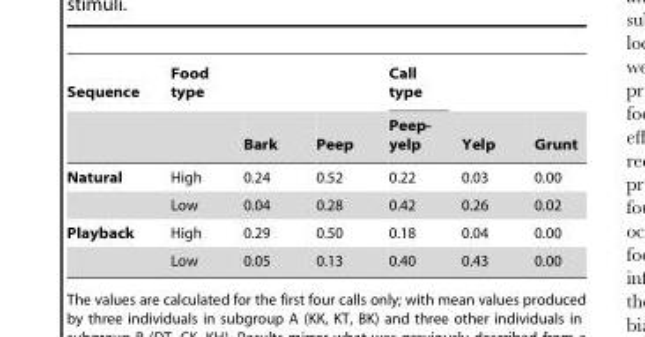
<table><thead><tr><td rowspan="2">Sequence</td><td rowspan="2">Food type</td><td rowspan="2">Bark</td><td rowspan="2">Peep</td><td rowspan="2">Call type Peep- yelp</td><td rowspan="2">Yelp</td><td rowspan="2">Grunt</td></tr><tr></tr></thead><tbody><tr><td rowspan="2">Natural</td><td>High</td><td>0.24</td><td>0.52</td><td>0.22</td><td>0.03</td><td>0.00</td></tr><tr><td>Low</td><td>0.04</td><td>0.28</td><td>0.42</td><td>0.26</td><td>0.02</td></tr><tr><td rowspan="2">Playback</td><td>High</td><td>0.29</td><td>0.50</td><td>0.18</td><td>0.04</td><td>0.00</td></tr><tr><td>Low</td><td>0.05</td><td>0.13</td><td>0.40</td><td>0.43</td><td>0.00</td></tr></tbody></table>